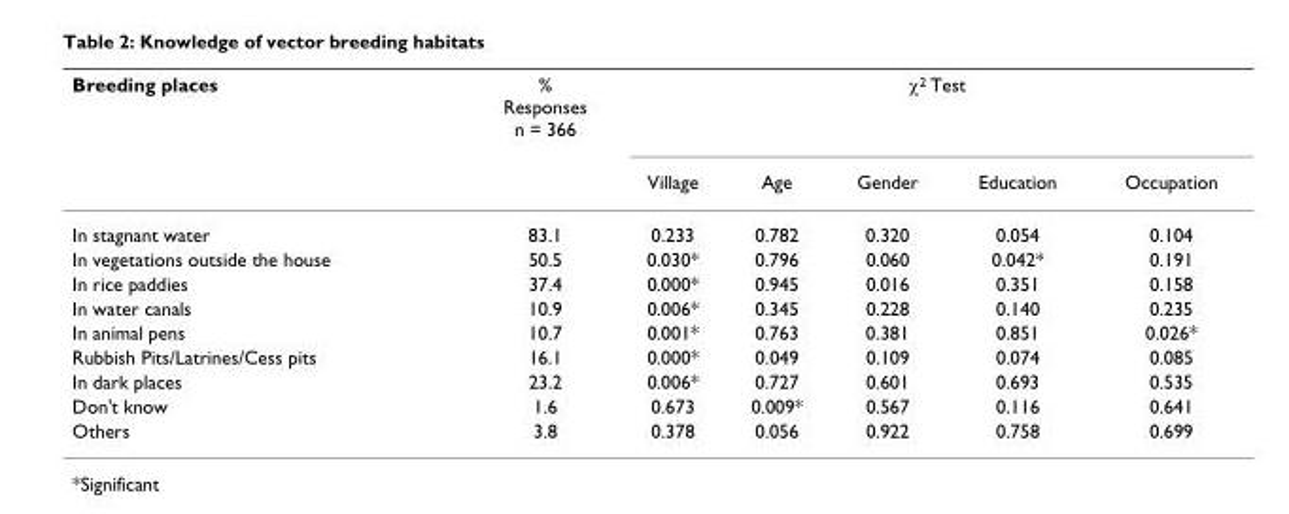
<table><thead><tr><td rowspan="2">Breeding places</td><td rowspan="2">% Responses n = 366</td><td colspan="5">χ<sup>2</sup> Test</td></tr><tr><td>Village</td><td>Age</td><td>Gender</td><td>Education</td><td>Occupation</td></tr></thead><tbody><tr><td>In stagnant water</td><td>83.1</td><td>0.233</td><td>0.782</td><td>0.320</td><td>0.054</td><td>0.104</td></tr><tr><td>In vegetations outside the house</td><td>50.5</td><td>0.030*</td><td>0.796</td><td>0.060</td><td>0.042*</td><td>0.191</td></tr><tr><td>In rice paddies</td><td>37.4</td><td>0.000*</td><td>0.945</td><td>0.016</td><td>0.351</td><td>0.158</td></tr><tr><td>In water canals</td><td>10.9</td><td>0.006*</td><td>0.345</td><td>0.228</td><td>0.140</td><td>0.235</td></tr><tr><td>In animal pens</td><td>10.7</td><td>0.001*</td><td>0.763</td><td>0.381</td><td>0.851</td><td>0.026*</td></tr><tr><td>Rubbish Pits/Latrines/Cess pits</td><td>16.1</td><td>0.000*</td><td>0.049</td><td>0.109</td><td>0.074</td><td>0.085</td></tr><tr><td>In dark places</td><td>23.2</td><td>0.006*</td><td>0.727</td><td>0.601</td><td>0.693</td><td>0.535</td></tr><tr><td>Don&#x27;t know</td><td>1.6</td><td>0.673</td><td>0.009*</td><td>0.567</td><td>0.116</td><td>0.641</td></tr><tr><td>Others</td><td>3.8</td><td>0.378</td><td>0.056</td><td>0.922</td><td>0.758</td><td>0.699</td></tr></tbody></table>